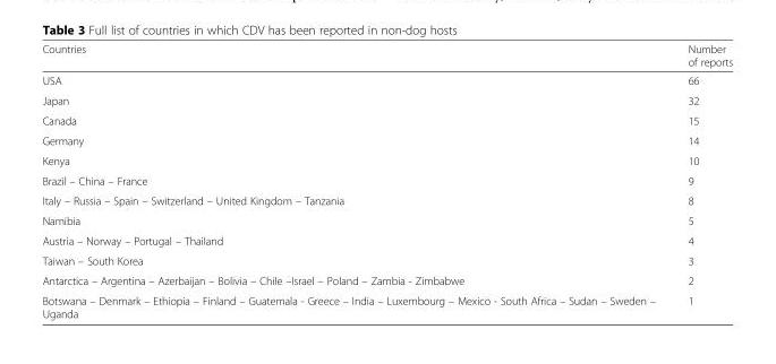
<table><thead><tr><td>Countries</td><td>Number of reports</td></tr></thead><tbody><tr><td>USA</td><td>66</td></tr><tr><td>Japan</td><td>32</td></tr><tr><td>Canada</td><td>15</td></tr><tr><td>Germany</td><td>14</td></tr><tr><td>Kenya</td><td>10</td></tr><tr><td>Brazil – China – France</td><td>9</td></tr><tr><td>Italy – Russia – Spain – Switzerland – United Kingdom – Tanzania</td><td>8</td></tr><tr><td>Namibia</td><td>5</td></tr><tr><td>Austria – Norway – Portugal – Thailand</td><td>4</td></tr><tr><td>Taiwan – South Korea</td><td>3</td></tr><tr><td>Antarctica – Argentina – Azerbaijan – Bolivia – Chile –Israel – Poland – Zambia - Zimbabwe</td><td>2</td></tr><tr><td>Botswana – Denmark – Ethiopia – Finland – Guatemala - Greece – India – Luxembourg – Mexico - South Africa – Sudan – Sweden – Uganda</td><td>1</td></tr></tbody></table>